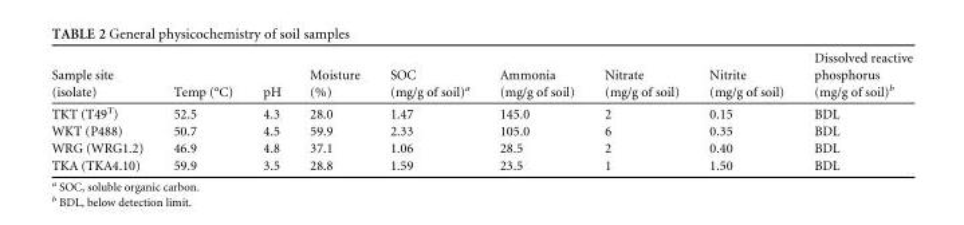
<table><thead><tr><td>Sample site (isolate)</td><td>Temp (°C)</td><td>pH</td><td>Moisture (%)</td><td>SOC (mg/g of soil)<sup>a</sup></td><td>Ammonia (mg/g of soil)</td><td>Nitrate (mg/g of soil)</td><td>Nitrite (mg/g of soil)</td><td>Dissolved reactive phosphorus (mg/g of soil)<sup>b</sup></td></tr></thead><tbody><tr><td>TKT (T49<sup>T</sup>)</td><td>52.5</td><td>4.3</td><td>28.0</td><td>1.47</td><td>145.0</td><td>2</td><td>0.15</td><td>BDL</td></tr><tr><td>WKT (P488)</td><td>50.7</td><td>4.5</td><td>59.9</td><td>2.33</td><td>105.0</td><td>6</td><td>0.35</td><td>BDL</td></tr><tr><td>WRG (WRG1.2)</td><td>46.9</td><td>4.8</td><td>37.1</td><td>1.06</td><td>28.5</td><td>2</td><td>0.40</td><td>BDL</td></tr><tr><td>TKA (TKA4.10)</td><td>59.9</td><td>3.5</td><td>28.8</td><td>1.59</td><td>23.5</td><td>1</td><td>1.50</td><td>BDL</td></tr></tbody></table>